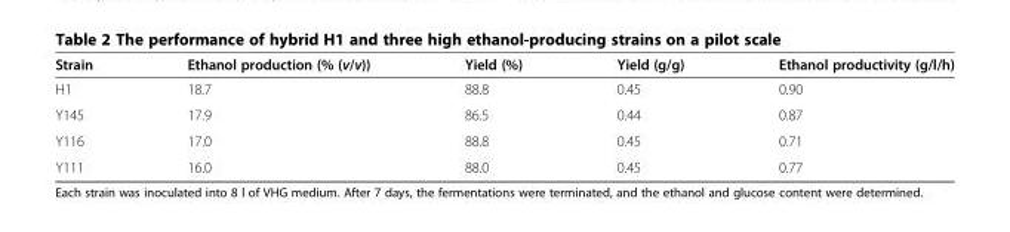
<table><thead><tr><td>Strain</td><td>Ethanol production (% (v/v))</td><td>Yield (%)</td><td>Yield (g/g)</td><td>Ethanol productivity (g/l/h)</td></tr></thead><tbody><tr><td>H1</td><td>18.7</td><td>88.8</td><td>0.45</td><td>0.90</td></tr><tr><td>Y145</td><td>17.9</td><td>86.5</td><td>0.44</td><td>0.87</td></tr><tr><td>Y116</td><td>17.0</td><td>88.8</td><td>0.45</td><td>0.71</td></tr><tr><td>Y111</td><td>16.0</td><td>88.0</td><td>0.45</td><td>0.77</td></tr></tbody></table>